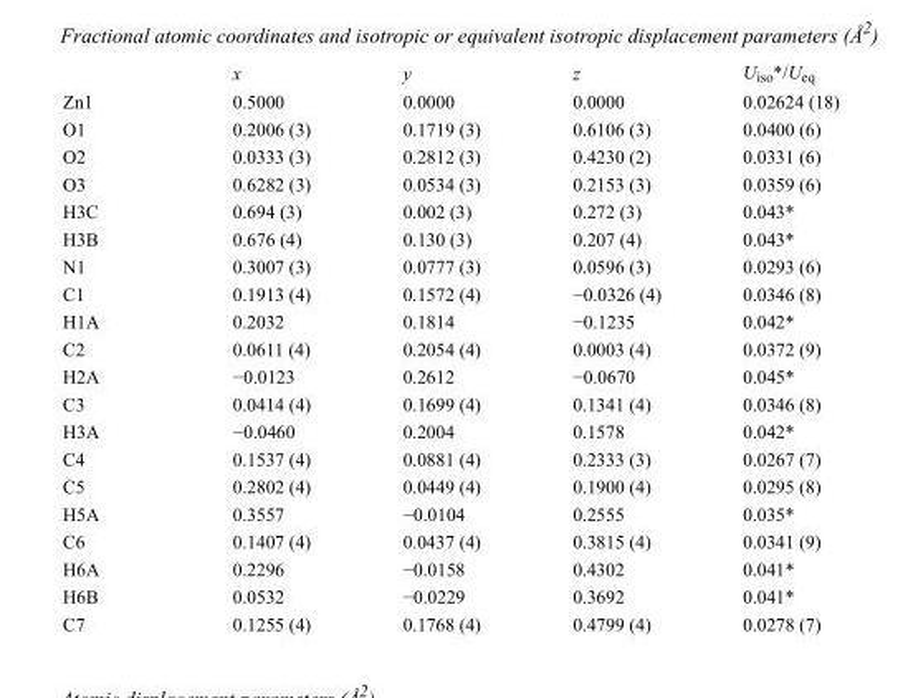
<table><thead><tr><td></td><td>x</td><td>y</td><td>z</td><td>U<sub>iso</sub>*/U<sub>eq</sub></td></tr></thead><tbody><tr><td>Zn1</td><td>0.5000</td><td>0.0000</td><td>0.0000</td><td>0.02624 (18)</td></tr><tr><td>O1</td><td>0.2006 (3)</td><td>0.1719 (3)</td><td>0.6106 (3)</td><td>0.0400 (6)</td></tr><tr><td>O2</td><td>0.0333 (3)</td><td>0.2812 (3)</td><td>0.4230 (2)</td><td>0.0331 (6)</td></tr><tr><td>O3</td><td>0.6282 (3)</td><td>0.0534 (3)</td><td>0.2153 (3)</td><td>0.0359 (6)</td></tr><tr><td>H3C</td><td>0.694 (3)</td><td>0.002 (3)</td><td>0.272 (3)</td><td>0.043*</td></tr><tr><td>H3B</td><td>0.676 (4)</td><td>0.130 (3)</td><td>0.207 (4)</td><td>0.043*</td></tr><tr><td>N1</td><td>0.3007 (3)</td><td>0.0777 (3)</td><td>0.0596 (3)</td><td>0.0293 (6)</td></tr><tr><td>C1</td><td>0.1913 (4)</td><td>0.1572 (4)</td><td>−0.0326 (4)</td><td>0.0346 (8)</td></tr><tr><td>H1A</td><td>0.2032</td><td>0.1814</td><td>−0.1235</td><td>0.042*</td></tr><tr><td>C2</td><td>0.0611 (4)</td><td>0.2054 (4)</td><td>0.0003 (4)</td><td>0.0372 (9)</td></tr><tr><td>H2A</td><td>−0.0123</td><td>0.2612</td><td>−0.0670</td><td>0.045*</td></tr><tr><td>C3</td><td>0.0414 (4)</td><td>0.1699 (4)</td><td>0.1341 (4)</td><td>0.0346 (8)</td></tr><tr><td>H3A</td><td>−0.0460</td><td>0.2004</td><td>0.1578</td><td>0.042*</td></tr><tr><td>C4</td><td>0.1537 (4)</td><td>0.0881 (4)</td><td>0.2333 (3)</td><td>0.0267 (7)</td></tr><tr><td>C5</td><td>0.2802 (4)</td><td>0.0449 (4)</td><td>0.1900 (4)</td><td>0.0295 (8)</td></tr><tr><td>H5A</td><td>0.3557</td><td>−0.0104</td><td>0.2555</td><td>0.035*</td></tr><tr><td>C6</td><td>0.1407 (4)</td><td>0.0437 (4)</td><td>0.3815 (4)</td><td>0.0341 (9)</td></tr><tr><td>H6A</td><td>0.2296</td><td>−0.0158</td><td>0.4302</td><td>0.041*</td></tr><tr><td>H6B</td><td>0.0532</td><td>−0.0229</td><td>0.3692</td><td>0.041*</td></tr><tr><td>C7</td><td>0.1255 (4)</td><td>0.1768 (4)</td><td>0.4799 (4)</td><td>0.0278 (7)</td></tr></tbody></table>